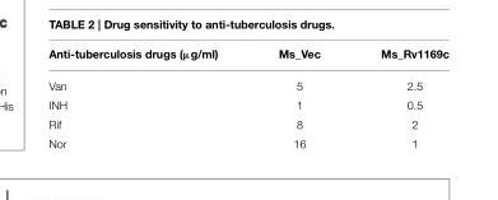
<table><thead><tr><td>Anti-tuberculosis drugs (µg/ml)</td><td>Ms_Vec</td><td>Ms_Rv1169c</td></tr></thead><tbody><tr><td>Van</td><td>5</td><td>2.5</td></tr><tr><td>INH</td><td>1</td><td>0.5</td></tr><tr><td>Rif</td><td>8</td><td>2</td></tr><tr><td>Nor</td><td>16</td><td>1</td></tr></tbody></table>